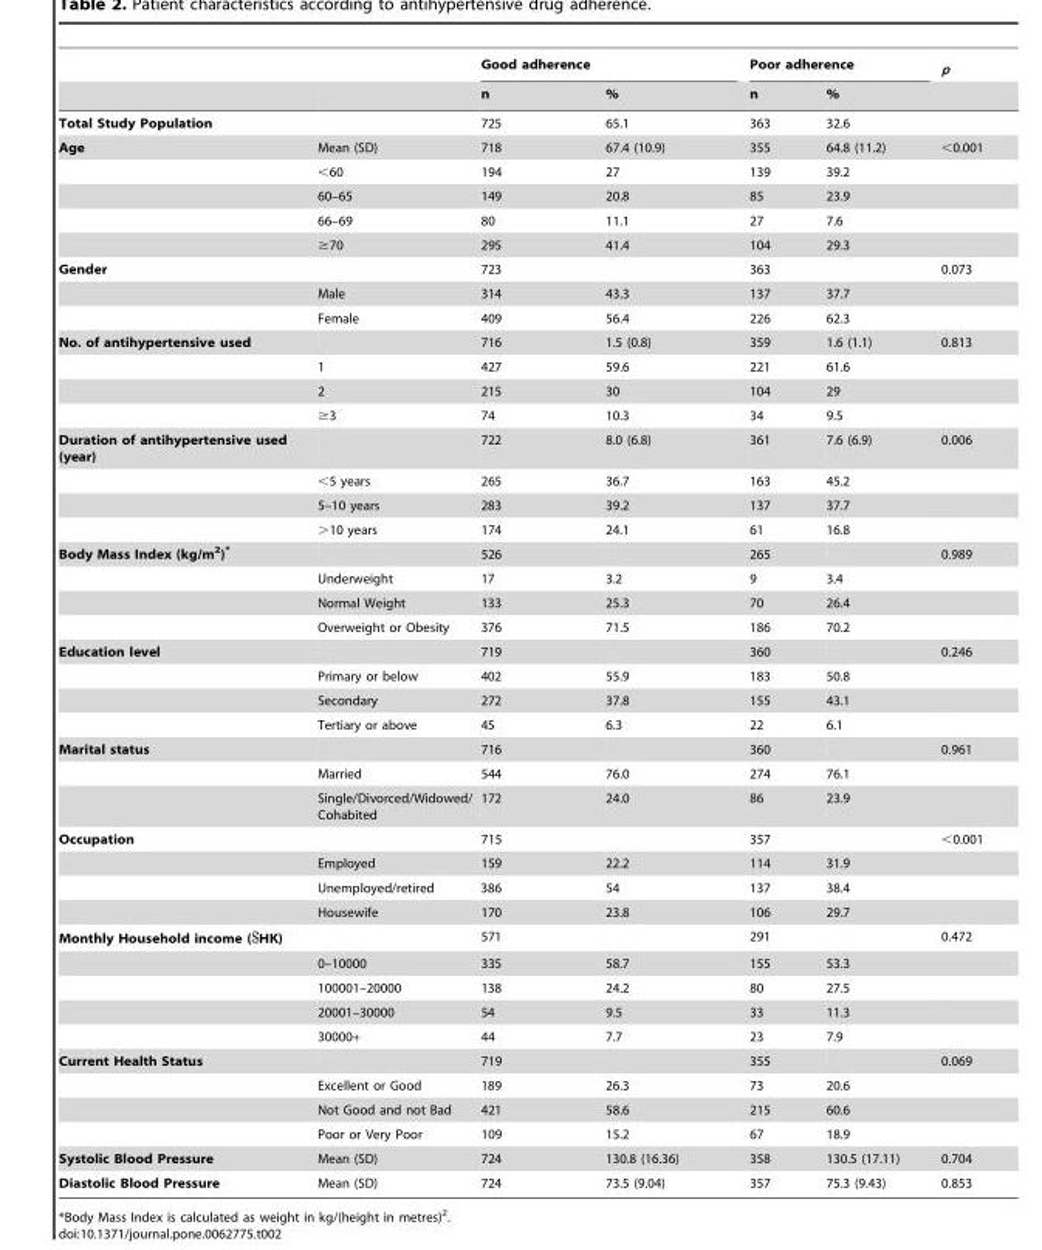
<table><thead><tr><td rowspan="2"></td><td rowspan="2"></td><td colspan="2">Good adherence</td><td colspan="2">Poor adherence</td><td rowspan="2">p</td></tr><tr><td>n</td><td>%</td><td>n</td><td>%</td></tr></thead><tbody><tr><td>Total Study Population</td><td></td><td>725</td><td>65.1</td><td>363</td><td>32.6</td><td></td></tr><tr><td rowspan="5">Age</td><td>Mean (SD)</td><td>718</td><td>67.4 (10.9)</td><td>355</td><td>64.8 (11.2)</td><td>&lt;0.001</td></tr><tr><td>&lt;60</td><td>194</td><td>27</td><td>139</td><td>39.2</td><td></td></tr><tr><td>60–65</td><td>149</td><td>20.8</td><td>85</td><td>23.9</td><td></td></tr><tr><td>66–69</td><td>80</td><td>11.1</td><td>27</td><td>7.6</td><td></td></tr><tr><td>≥70</td><td>295</td><td>41.4</td><td>104</td><td>29.3</td><td></td></tr><tr><td rowspan="3">Gender</td><td></td><td>723</td><td></td><td>363</td><td></td><td>0.073</td></tr><tr><td>Male</td><td>314</td><td>43.3</td><td>137</td><td>37.7</td><td></td></tr><tr><td>Female</td><td>409</td><td>56.4</td><td>226</td><td>62.3</td><td></td></tr><tr><td rowspan="4">No. of antihypertensive used</td><td></td><td>716</td><td>1.5 (0.8)</td><td>359</td><td>1.6 (1.1)</td><td>0.813</td></tr><tr><td>1</td><td>427</td><td>59.6</td><td>221</td><td>61.6</td><td></td></tr><tr><td>2</td><td>215</td><td>30</td><td>104</td><td>29</td><td></td></tr><tr><td>≥3</td><td>74</td><td>10.3</td><td>34</td><td>9.5</td><td></td></tr><tr><td rowspan="4">Duration of antihypertensive used (year)</td><td></td><td>722</td><td>8.0 (6.8)</td><td>361</td><td>7.6 (6.9)</td><td>0.006</td></tr><tr><td>&lt;5 years</td><td>265</td><td>36.7</td><td>163</td><td>45.2</td><td></td></tr><tr><td>5–10 years</td><td>283</td><td>39.2</td><td>137</td><td>37.7</td><td></td></tr><tr><td>&gt;10 years</td><td>174</td><td>24.1</td><td>61</td><td>16.8</td><td></td></tr><tr><td rowspan="4">Body Mass Index (kg/m<sup>2</sup>)*</td><td></td><td>526</td><td></td><td>265</td><td></td><td>0.989</td></tr><tr><td>Underweight</td><td>17</td><td>3.2</td><td>9</td><td>3.4</td><td></td></tr><tr><td>Normal Weight</td><td>133</td><td>25.3</td><td>70</td><td>26.4</td><td></td></tr><tr><td>Overweight or Obesity</td><td>376</td><td>71.5</td><td>186</td><td>70.2</td><td></td></tr><tr><td rowspan="4">Education level</td><td></td><td>719</td><td></td><td>360</td><td></td><td>0.246</td></tr><tr><td>Primary or below</td><td>402</td><td>55.9</td><td>183</td><td>50.8</td><td></td></tr><tr><td>Secondary</td><td>272</td><td>37.8</td><td>155</td><td>43.1</td><td></td></tr><tr><td>Tertiary or above</td><td>45</td><td>6.3</td><td>22</td><td>6.1</td><td></td></tr><tr><td rowspan="3">Marital status</td><td></td><td>716</td><td></td><td>360</td><td></td><td>0.961</td></tr><tr><td>Married</td><td>544</td><td>76.0</td><td>274</td><td>76.1</td><td></td></tr><tr><td>Single/Divorced/Widowed/ Cohabited</td><td>172</td><td>24.0</td><td>86</td><td>23.9</td><td></td></tr><tr><td rowspan="4">Occupation</td><td></td><td>715</td><td></td><td>357</td><td></td><td>&lt;0.001</td></tr><tr><td>Employed</td><td>159</td><td>22.2</td><td>114</td><td>31.9</td><td></td></tr><tr><td>Unemployed/retired</td><td>386</td><td>54</td><td>137</td><td>38.4</td><td></td></tr><tr><td>Housewife</td><td>170</td><td>23.8</td><td>106</td><td>29.7</td><td></td></tr><tr><td rowspan="5">Monthly Household income ($HK)</td><td></td><td>571</td><td></td><td>291</td><td></td><td>0.472</td></tr><tr><td>0–10000</td><td>335</td><td>58.7</td><td>155</td><td>53.3</td><td></td></tr><tr><td>100001–20000</td><td>138</td><td>24.2</td><td>80</td><td>27.5</td><td></td></tr><tr><td>20001–30000</td><td>54</td><td>9.5</td><td>33</td><td>11.3</td><td></td></tr><tr><td>30000+</td><td>44</td><td>7.7</td><td>23</td><td>7.9</td><td></td></tr><tr><td rowspan="4">Current Health Status</td><td></td><td>719</td><td></td><td>355</td><td></td><td>0.069</td></tr><tr><td>Excellent or Good</td><td>189</td><td>26.3</td><td>73</td><td>20.6</td><td></td></tr><tr><td>Not Good and not Bad</td><td>421</td><td>58.6</td><td>215</td><td>60.6</td><td></td></tr><tr><td>Poor or Very Poor</td><td>109</td><td>15.2</td><td>67</td><td>18.9</td><td></td></tr><tr><td>Systolic Blood Pressure</td><td>Mean (SD)</td><td>724</td><td>130.8 (16.36)</td><td>358</td><td>130.5 (17.11)</td><td>0.704</td></tr><tr><td>Diastolic Blood Pressure</td><td>Mean (SD)</td><td>724</td><td>73.5 (9.04)</td><td>357</td><td>75.3 (9.43)</td><td>0.853</td></tr></tbody></table>